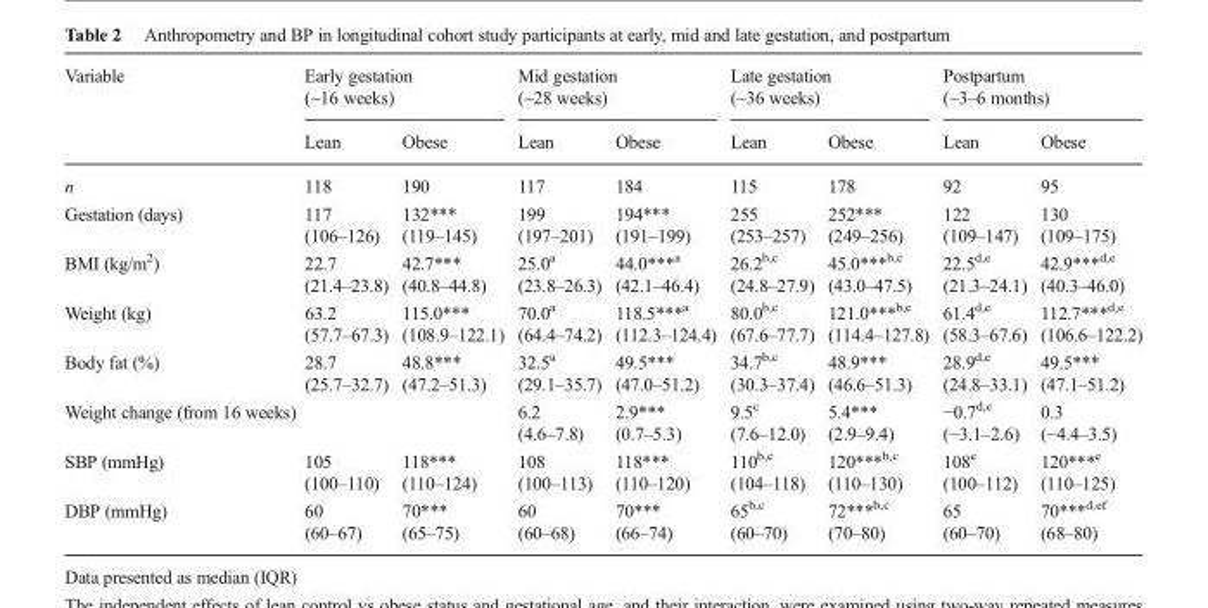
<table><thead><tr><td rowspan="2">Variable</td><td colspan="2">Early gestation (~16 weeks)</td><td colspan="2">Mid gestation (~28 weeks)</td><td colspan="2">Late gestation (~36 weeks)</td><td colspan="2">Postpartum (~3–6 months)</td></tr><tr><td>Lean</td><td>Obese</td><td>Lean</td><td>Obese</td><td>Lean</td><td>Obese</td><td>Lean</td><td>Obese</td></tr></thead><tbody><tr><td>n</td><td>118</td><td>190</td><td>117</td><td>184</td><td>115</td><td>178</td><td>92</td><td>95</td></tr><tr><td>Gestation (days)</td><td>117 (106–126)</td><td>132*** (119–145)</td><td>199 (197–201)</td><td>194*** (191–199)</td><td>255 (253–257)</td><td>252*** (249–256)</td><td>122 (109–147)</td><td>130 (109–175)</td></tr><tr><td>BMI (kg/m<sup>2</sup>)</td><td>22.7 (21.4–23.8)</td><td>42.7*** (40.8–44.8)</td><td>25.0<sup>a</sup> (23.8–26.3)</td><td>44.0***<sup>a</sup> (42.1–46.4)</td><td>26.2<sup>b,c</sup> (24.8–27.9)</td><td>45.0***<sup>b,c</sup> (43.0–47.5)</td><td>22.5<sup>d,e</sup> (21.3–24.1)</td><td>42.9***<sup>d,e</sup> (40.3–46.0)</td></tr><tr><td>Weight (kg)</td><td>63.2 (57.7–67.3)</td><td>115.0*** (108.9–122.1)</td><td>70.0<sup>a</sup> (64.4–74.2)</td><td>118.5***<sup>a</sup> (112.3–124.4)</td><td>80.0<sup>b,c</sup> (67.6–77.7)</td><td>121.0***<sup>b,c</sup> (114.4–127.8)</td><td>61.4<sup>d,e</sup> (58.3–67.6)</td><td>112.7***<sup>d,e</sup> (106.6–122.2)</td></tr><tr><td>Body fat (%)</td><td>28.7 (25.7–32.7)</td><td>48.8*** (47.2–51.3)</td><td>32.5<sup>a</sup> (29.1–35.7)</td><td>49.5*** (47.0–51.2)</td><td>34.7<sup>b,c</sup> (30.3–37.4)</td><td>48.9*** (46.6–51.3)</td><td>28.9<sup>d,e</sup> (24.8–33.1)</td><td>49.5*** (47.1–51.2)</td></tr><tr><td>Weight change (from 16 weeks)</td><td colspan="2"></td><td>6.2 (4.6–7.8)</td><td>2.9*** (0.7–5.3)</td><td>9.5<sup>c</sup> (7.6–12.0)</td><td>5.4*** (2.9–9.4)</td><td>−0.7<sup>d,e</sup> (−3.1–2.6)</td><td>0.3 (−4.4–3.5)</td></tr><tr><td>SBP (mmHg)</td><td>105 (100–110)</td><td>118*** (110–124)</td><td>108 (100–113)</td><td>118*** (110–120)</td><td>110<sup>b,c</sup> (104–118)</td><td>120***<sup>b,c</sup> (110–130)</td><td>108<sup>e</sup> (100–112)</td><td>120***<sup>e</sup> (110–125)</td></tr><tr><td>DBP (mmHg)</td><td>60 (60–67)</td><td>70*** (65–75)</td><td>60 (60–68)</td><td>70*** (66–74)</td><td>65<sup>b,c</sup> (60–70)</td><td>72***<sup>b,c</sup> (70–80)</td><td>65 (60–70)</td><td>70***<sup>d,ef</sup> (68–80)</td></tr></tbody></table>